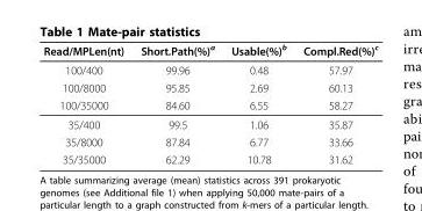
<table><thead><tr><td>Read/MPLen(nt)</td><td>Short.Path(%)<sup>a</sup></td><td>Usable(%)<sup>b</sup></td><td>Compl.Red(%)<sup>c</sup></td></tr></thead><tbody><tr><td>100/400</td><td>99.96</td><td>0.48</td><td>57.97</td></tr><tr><td>100/8000</td><td>95.85</td><td>2.69</td><td>60.13</td></tr><tr><td>100/35000</td><td>84.60</td><td>6.55</td><td>58.27</td></tr><tr><td>35/400</td><td>99.5</td><td>1.06</td><td>35.87</td></tr><tr><td>35/8000</td><td>87.84</td><td>6.77</td><td>33.66</td></tr><tr><td>35/35000</td><td>62.29</td><td>10.78</td><td>31.62</td></tr></tbody></table>